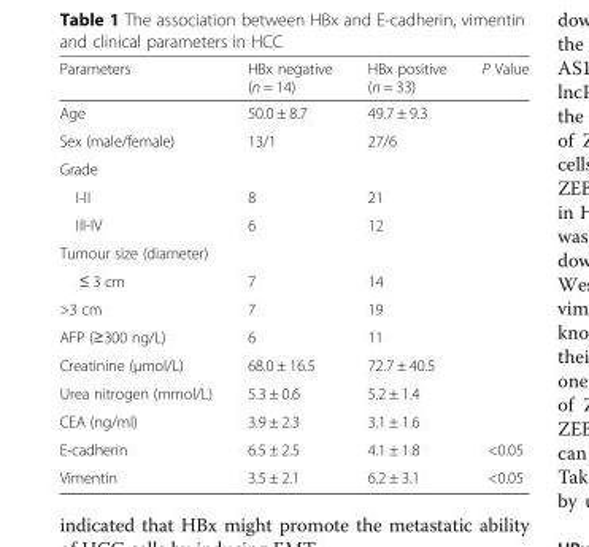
<table><thead><tr><td>Parameters</td><td>HBx negative (n = 14)</td><td>HBx positive (n = 33)</td><td>P Value</td></tr></thead><tbody><tr><td>Age</td><td>50.0 ± 8.7</td><td>49.7 ± 9.3</td><td></td></tr><tr><td>Sex (male/female)</td><td>13/1</td><td>27/6</td><td></td></tr><tr><td colspan="4">Grade</td></tr><tr><td>I-II</td><td>8</td><td>21</td><td></td></tr><tr><td>III-IV</td><td>6</td><td>12</td><td></td></tr><tr><td colspan="4">Tumour size (diameter)</td></tr><tr><td>≤ 3 cm</td><td>7</td><td>14</td><td></td></tr><tr><td>&gt;3 cm</td><td>7</td><td>19</td><td></td></tr><tr><td>AFP (≥300 ng/L)</td><td>6</td><td>11</td><td></td></tr><tr><td>Creatinine (μmol/L)</td><td>68.0 ± 16.5</td><td>72.7 ± 40.5</td><td></td></tr><tr><td>Urea nitrogen (mmol/L)</td><td>5.3 ± 0.6</td><td>5.2 ± 1.4</td><td></td></tr><tr><td>CEA (ng/ml)</td><td>3.9 ± 2.3</td><td>3.1 ± 1.6</td><td></td></tr><tr><td>E-cadherin</td><td>6.5 ± 2.5</td><td>4.1 ± 1.8</td><td>&lt;0.05</td></tr><tr><td>Vimentin</td><td>3.5 ± 2.1</td><td>6.2 ± 3.1</td><td>&lt;0.05</td></tr></tbody></table>